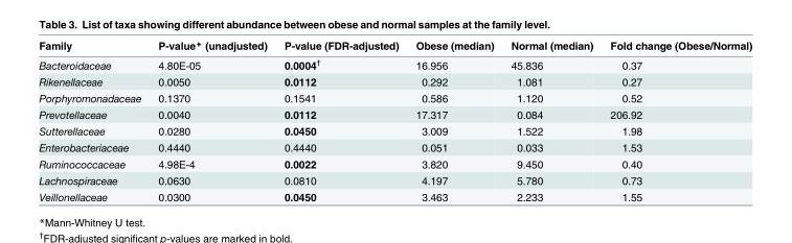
<table><thead><tr><td>Family</td><td>P-value* (unadjusted)</td><td>P-value (FDR-adjusted)</td><td>Obese (median)</td><td>Normal (median)</td><td>Fold change (Obese/Normal)</td></tr></thead><tbody><tr><td>Bacteroidaceae</td><td>4.80E-05</td><td>0.0004<sup>†</sup></td><td>16.956</td><td>45.836</td><td>0.37</td></tr><tr><td>Rikenellaceae</td><td>0.0050</td><td>0.0112</td><td>0.292</td><td>1.081</td><td>0.27</td></tr><tr><td>Porphyromonadaceae</td><td>0.1370</td><td>0.1541</td><td>0.586</td><td>1.120</td><td>0.52</td></tr><tr><td>Prevotellaceae</td><td>0.0040</td><td>0.0112</td><td>17.317</td><td>0.084</td><td>206.92</td></tr><tr><td>Sutterellaceae</td><td>0.0280</td><td>0.0450</td><td>3.009</td><td>1.522</td><td>1.98</td></tr><tr><td>Enterobacteriaceae</td><td>0.4440</td><td>0.4440</td><td>0.051</td><td>0.033</td><td>1.53</td></tr><tr><td>Ruminococcaceae</td><td>4.98E-4</td><td>0.0022</td><td>3.820</td><td>9.450</td><td>0.40</td></tr><tr><td>Lachnospiraceae</td><td>0.0630</td><td>0.0810</td><td>4.197</td><td>5.780</td><td>0.73</td></tr><tr><td>Veillonellaceae</td><td>0.0300</td><td>0.0450</td><td>3.463</td><td>2.233</td><td>1.55</td></tr></tbody></table>